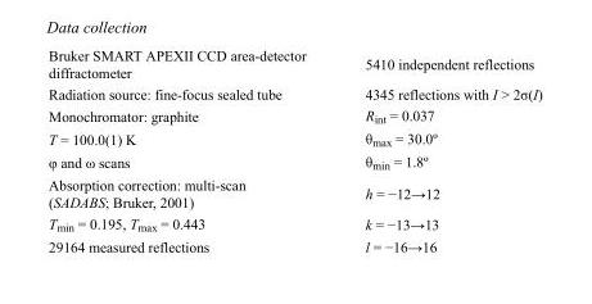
<table><tbody><tr><td>Bruker SMART APEXII CCD area-detector diffractometer</td><td>5410 independent reflections</td></tr><tr><td>Radiation source: fine-focus sealed tube</td><td>4345 reflections with I &gt; 2σ(I)</td></tr><tr><td>Monochromator: graphite</td><td>R<sub>int</sub> = 0.037</td></tr><tr><td>T = 100.0(1) K</td><td>θ<sub>max</sub> = 30.0º</td></tr><tr><td>φ and ω scans</td><td>θ<sub>min</sub> = 1.8º</td></tr><tr><td>Absorption correction: multi-scan (SADABS; Bruker, 2001)</td><td>h = −12→12</td></tr><tr><td>T<sub>min</sub> = 0.195, T<sub>max</sub> = 0.443</td><td>k = −13→13</td></tr><tr><td>29164 measured reflections</td><td>l = −16→16</td></tr></tbody></table>